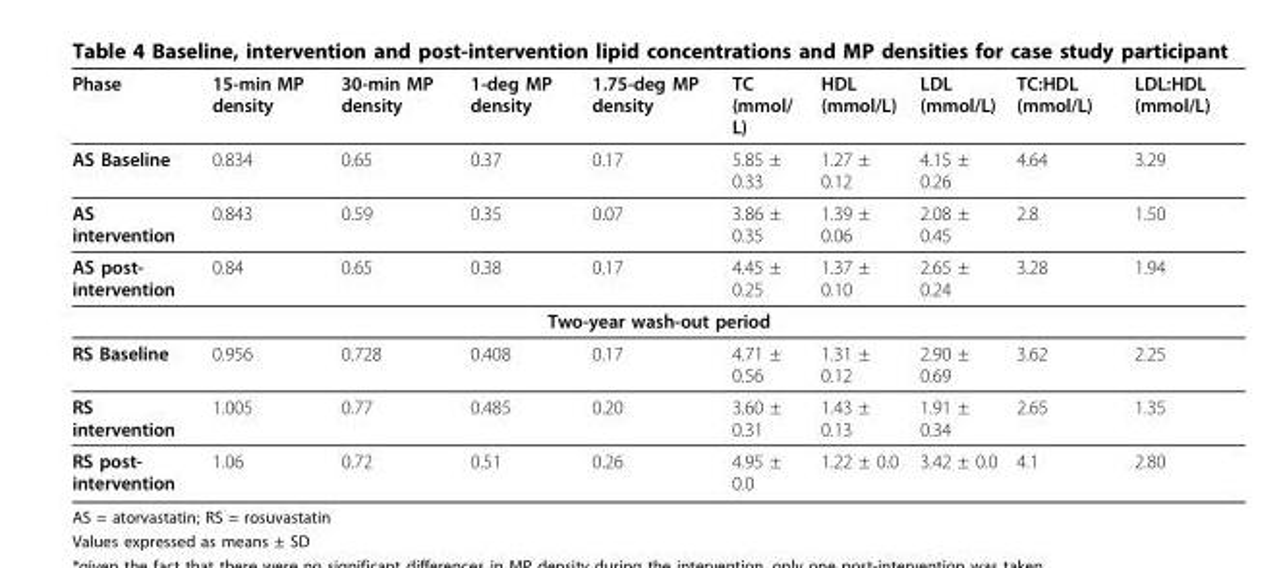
<table><thead><tr><td>Phase</td><td>15-min MP density</td><td>30-min MP density</td><td>1-deg MP density</td><td>1.75-deg MP density</td><td>TC (mmol/ L)</td><td>HDL (mmol/L)</td><td>LDL (mmol/L)</td><td>TC:HDL (mmol/L)</td><td>LDL:HDL (mmol/L)</td></tr></thead><tbody><tr><td>AS Baseline</td><td>0.834</td><td>0.65</td><td>0.37</td><td>0.17</td><td>5.85 ± 0.33</td><td>1.27 ± 0.12</td><td>4.15 ± 0.26</td><td>4.64</td><td>3.29</td></tr><tr><td>AS intervention</td><td>0.843</td><td>0.59</td><td>0.35</td><td>0.07</td><td>3.86 ± 0.35</td><td>1.39 ± 0.06</td><td>2.08 ± 0.45</td><td>2.8</td><td>1.50</td></tr><tr><td>AS post- intervention</td><td>0.84</td><td>0.65</td><td>0.38</td><td>0.17</td><td>4.45 ± 0.25</td><td>1.37 ± 0.10</td><td>2.65 ± 0.24</td><td>3.28</td><td>1.94</td></tr><tr><td colspan="10">Two-year wash-out period</td></tr><tr><td>RS Baseline</td><td>0.956</td><td>0.728</td><td>0.408</td><td>0.17</td><td>4.71 ± 0.56</td><td>1.31 ± 0.12</td><td>2.90 ± 0.69</td><td>3.62</td><td>2.25</td></tr><tr><td>RS intervention</td><td>1.005</td><td>0.77</td><td>0.485</td><td>0.20</td><td>3.60 ± 0.31</td><td>1.43 ± 0.13</td><td>1.91 ± 0.34</td><td>2.65</td><td>1.35</td></tr><tr><td>RS post- intervention</td><td>1.06</td><td>0.72</td><td>0.51</td><td>0.26</td><td>4.95 ± 0.0</td><td>1.22 ± 0.0</td><td>3.42 ± 0.0</td><td>4.1</td><td>2.80</td></tr></tbody></table>